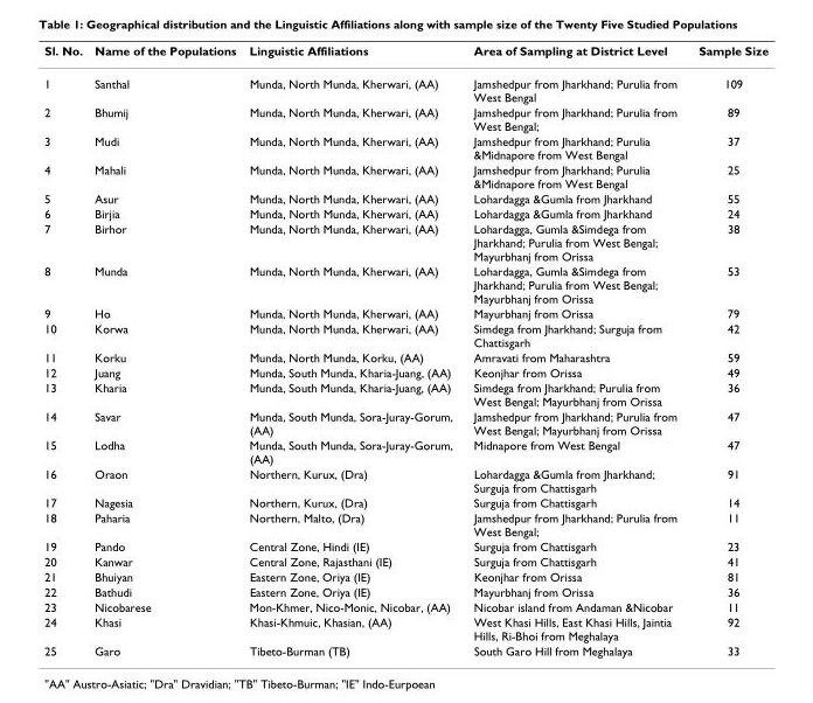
<table><thead><tr><td>Sl. No.</td><td>Name of the Populations</td><td>Linguistic Affiliations</td><td>Area of Sampling at District Level</td><td>Sample Size</td></tr></thead><tbody><tr><td>1</td><td>Santhal</td><td>Munda, North Munda, Kherwari, (AA)</td><td>Jamshedpur from Jharkhand; Purulia from West Bengal</td><td>109</td></tr><tr><td>2</td><td>Bhumij</td><td>Munda, North Munda, Kherwari, (AA)</td><td>Jamshedpur from Jharkhand; Purulia from West Bengal;</td><td>89</td></tr><tr><td>3</td><td>Mudi</td><td>Munda, North Munda, Kherwari, (AA)</td><td>Jamshedpur from Jharkhand; Purulia &amp;Midnapore from West Bengal</td><td>37</td></tr><tr><td>4</td><td>Mahali</td><td>Munda, North Munda, Kherwari, (AA)</td><td>Jamshedpur from Jharkhand; Purulia &amp;Midnapore from West Bengal</td><td>25</td></tr><tr><td>5</td><td>Asur</td><td>Munda, North Munda, Kherwari, (AA)</td><td>Lohardagga &amp;Gumla from Jharkhand</td><td>55</td></tr><tr><td>6</td><td>Birjia</td><td>Munda, North Munda, Kherwari, (AA)</td><td>Lohardagga &amp;Gumla from Jharkhand</td><td>24</td></tr><tr><td>7</td><td>Birhor</td><td>Munda, North Munda, Kherwari, (AA)</td><td>Lohardagga, Gumla &amp;Simdega from Jharkhand; Purulia from West Bengal; Mayurbhanj from Orissa</td><td>38</td></tr><tr><td>8</td><td>Munda</td><td>Munda, North Munda, Kherwari, (AA)</td><td>Lohardagga, Gumla &amp;Simdega from Jharkhand; Purulia from West Bengal; Mayurbhanj from Orissa</td><td>53</td></tr><tr><td>9</td><td>Ho</td><td>Munda, North Munda, Kherwari, (AA)</td><td>Mayurbhanj from Orissa</td><td>79</td></tr><tr><td>10</td><td>Korwa</td><td>Munda, North Munda, Kherwari, (AA)</td><td>Simdega from Jharkhand; Surguja from Chattisgarh</td><td>42</td></tr><tr><td>11</td><td>Korku</td><td>Munda, North Munda, Korku, (AA)</td><td>Amravati from Maharashtra</td><td>59</td></tr><tr><td>12</td><td>Juang</td><td>Munda, South Munda, Kharia-Juang, (AA)</td><td>Keonjhar from Orissa</td><td>49</td></tr><tr><td>13</td><td>Kharia</td><td>Munda, South Munda, Kharia-Juang, (AA)</td><td>Simdega from Jharkhand; Purulia from West Bengal; Mayurbhanj from Orissa</td><td>36</td></tr><tr><td>14</td><td>Savar</td><td>Munda, South Munda, Sora-Juray-Gorum, (AA)</td><td>Jamshedpur from Jharkhand; Purulia from West Bengal; Mayurbhanj from Orissa</td><td>47</td></tr><tr><td>15</td><td>Lodha</td><td>Munda, South Munda, Sora-Juray-Gorum, (AA)</td><td>Midnapore from West Bengal</td><td>47</td></tr><tr><td>16</td><td>Oraon</td><td>Northern, Kurux, (Dra)</td><td>Lohardagga &amp;Gumla from Jharkhand; Surguja from Chattisgarh</td><td>91</td></tr><tr><td>17</td><td>Nagesia</td><td>Northern, Kurux, (Dra)</td><td>Surguja from Chattisgarh</td><td>14</td></tr><tr><td>18</td><td>Paharia</td><td>Northern, Malto, (Dra)</td><td>Jamshedpur from Jharkhand; Purulia from West Bengal;</td><td>11</td></tr><tr><td>19</td><td>Pando</td><td>Central Zone, Hindi (IE)</td><td>Surguja from Chattisgarh</td><td>23</td></tr><tr><td>20</td><td>Kanwar</td><td>Central Zone, Rajasthani (IE)</td><td>Surguja from Chattisgarh</td><td>41</td></tr><tr><td>21</td><td>Bhuiyan</td><td>Eastern Zone, Oriya (IE)</td><td>Keonjhar from Orissa</td><td>81</td></tr><tr><td>22</td><td>Bathudi</td><td>Eastern Zone, Oriya (IE)</td><td>Mayurbhanj from Orissa</td><td>36</td></tr><tr><td>23</td><td>Nicobarese</td><td>Mon-Khmer, Nico-Monic, Nicobar, (AA)</td><td>Nicobar island from Andaman &amp;Nicobar</td><td>11</td></tr><tr><td>24</td><td>Khasi</td><td>Khasi-Khmuic, Khasian, (AA)</td><td>West Khasi Hills, East Khasi Hills, Jaintia Hills, Ri-Bhoi from Meghalaya</td><td>92</td></tr><tr><td>25</td><td>Garo</td><td>Tibeto-Burman (TB)</td><td>South Garo Hill from Meghalaya</td><td>33</td></tr></tbody></table>